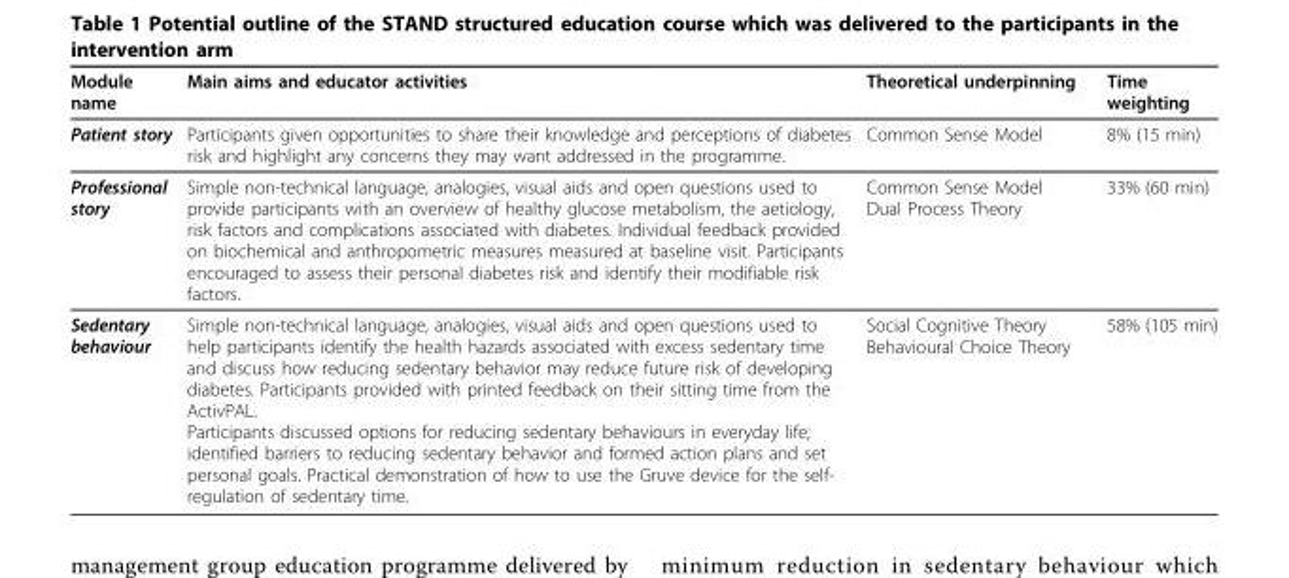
<table><thead><tr><td>Module name</td><td>Main aims and educator activities</td><td>Theoretical underpinning</td><td>Time weighting</td></tr></thead><tbody><tr><td>Patient story</td><td>Participants given opportunities to share their knowledge and perceptions of diabetes risk and highlight any concerns they may want addressed in the programme.</td><td>Common Sense Model</td><td>8% (15 min)</td></tr><tr><td>Professional story</td><td>Simple non-technical language, analogies, visual aids and open questions used to provide participants with an overview of healthy glucose metabolism, the aetiology, risk factors and complications associated with diabetes. Individual feedback provided on biochemical and anthropometric measures measured at baseline visit. Participants encouraged to assess their personal diabetes risk and identify their modifiable risk factors.</td><td>Common Sense Model Dual Process Theory</td><td>33% (60 min)</td></tr><tr><td>Sedentary behaviour</td><td>Simple non-technical language, analogies, visual aids and open questions used to help participants identify the health hazards associated with excess sedentary time and discuss how reducing sedentary behavior may reduce future risk of developing diabetes. Participants provided with printed feedback on their sitting time from the ActivPAL. Participants discussed options for reducing sedentary behaviours in everyday life; identified barriers to reducing sedentary behavior and formed action plans and set personal goals. Practical demonstration of how to use the Gruve device for the self- regulation of sedentary time.</td><td>Social Cognitive Theory Behavioural Choice Theory</td><td>58% (105 min)</td></tr></tbody></table>